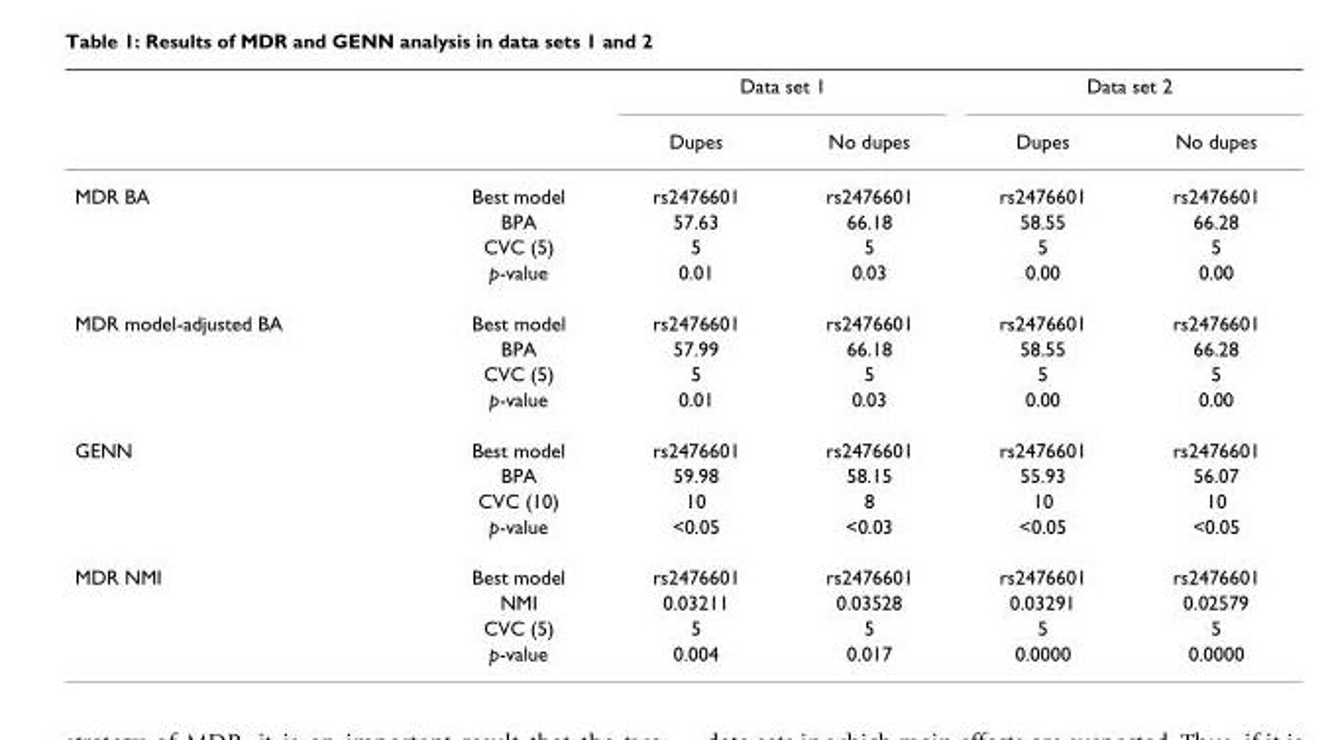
<table><thead><tr><td rowspan="2"></td><td rowspan="2"></td><td colspan="2">Data set 1</td><td colspan="2">Data set 2</td></tr><tr><td>Dupes</td><td>No dupes</td><td>Dupes</td><td>No dupes</td></tr></thead><tbody><tr><td rowspan="4">MDR BA</td><td>Best model</td><td>rs2476601</td><td>rs2476601</td><td>rs2476601</td><td>rs2476601</td></tr><tr><td>BPA</td><td>57.63</td><td>66.18</td><td>58.55</td><td>66.28</td></tr><tr><td>CVC (5)</td><td>5</td><td>5</td><td>5</td><td>5</td></tr><tr><td>p-value</td><td>0.01</td><td>0.03</td><td>0.00</td><td>0.00</td></tr><tr><td rowspan="4">MDR model-adjusted BA</td><td>Best model</td><td>rs2476601</td><td>rs2476601</td><td>rs2476601</td><td>rs2476601</td></tr><tr><td>BPA</td><td>57.99</td><td>66.18</td><td>58.55</td><td>66.28</td></tr><tr><td>CVC (5)</td><td>5</td><td>5</td><td>5</td><td>5</td></tr><tr><td>p-value</td><td>0.01</td><td>0.03</td><td>0.00</td><td>0.00</td></tr><tr><td rowspan="4">GENN</td><td>Best model</td><td>rs2476601</td><td>rs2476601</td><td>rs2476601</td><td>rs2476601</td></tr><tr><td>BPA</td><td>59.98</td><td>58.15</td><td>55.93</td><td>56.07</td></tr><tr><td>CVC (10)</td><td>10</td><td>8</td><td>10</td><td>10</td></tr><tr><td>p-value</td><td>&lt;0.05</td><td>&lt;0.03</td><td>&lt;0.05</td><td>&lt;0.05</td></tr><tr><td rowspan="4">MDR NMI</td><td>Best model</td><td>rs2476601</td><td>rs2476601</td><td>rs2476601</td><td>rs2476601</td></tr><tr><td>NMI</td><td>0.03211</td><td>0.03528</td><td>0.03291</td><td>0.02579</td></tr><tr><td>CVC (5)</td><td>5</td><td>5</td><td>5</td><td>5</td></tr><tr><td>p-value</td><td>0.004</td><td>0.017</td><td>0.0000</td><td>0.0000</td></tr></tbody></table>